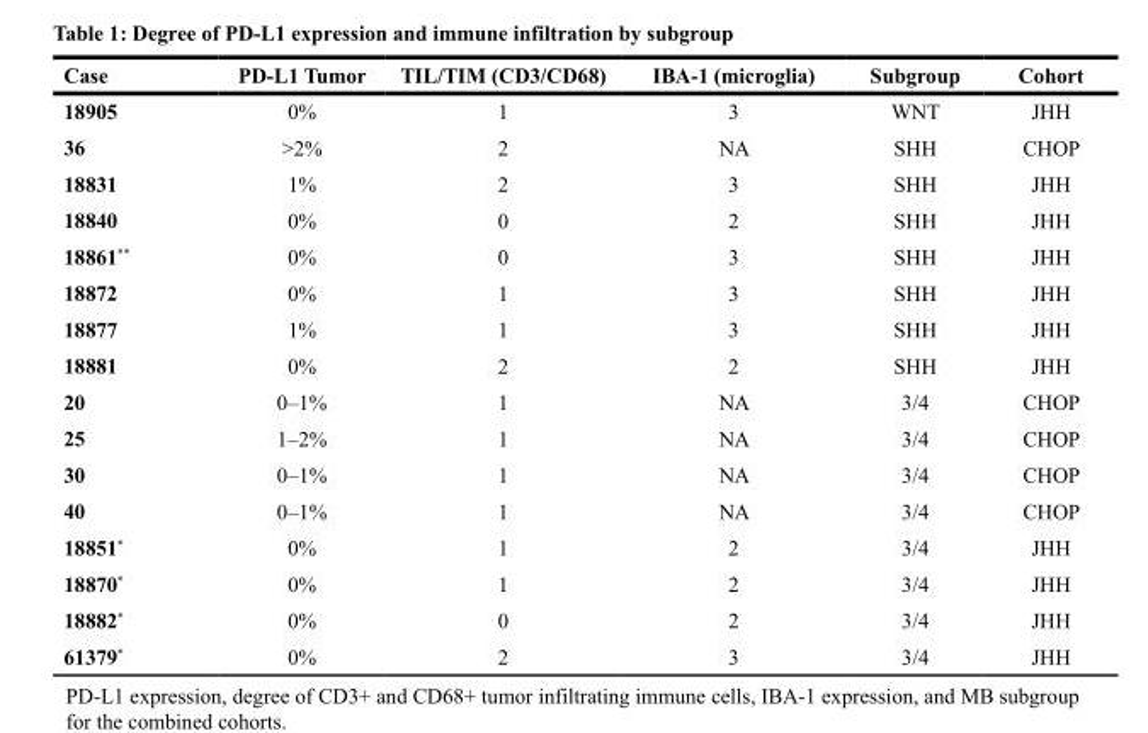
<table><thead><tr><td>Case</td><td>PD-L1 Tumor</td><td>TIL/TIM (CD3/CD68)</td><td>IBA-1 (microglia)</td><td>Subgroup</td><td>Cohort</td></tr></thead><tbody><tr><td>18905</td><td>0%</td><td>1</td><td>3</td><td>WNT</td><td>JHH</td></tr><tr><td>36</td><td>&gt;2%</td><td>2</td><td>NA</td><td>SHH</td><td>CHOP</td></tr><tr><td>18831</td><td>1%</td><td>2</td><td>3</td><td>SHH</td><td>JHH</td></tr><tr><td>18840</td><td>0%</td><td>0</td><td>2</td><td>SHH</td><td>JHH</td></tr><tr><td>18861**</td><td>0%</td><td>0</td><td>3</td><td>SHH</td><td>JHH</td></tr><tr><td>18872</td><td>0%</td><td>1</td><td>3</td><td>SHH</td><td>JHH</td></tr><tr><td>18877</td><td>1%</td><td>1</td><td>3</td><td>SHH</td><td>JHH</td></tr><tr><td>18881</td><td>0%</td><td>2</td><td>2</td><td>SHH</td><td>JHH</td></tr><tr><td>20</td><td>0–1%</td><td>1</td><td>NA</td><td>3/4</td><td>CHOP</td></tr><tr><td>25</td><td>1–2%</td><td>1</td><td>NA</td><td>3/4</td><td>CHOP</td></tr><tr><td>30</td><td>0–1%</td><td>1</td><td>NA</td><td>3/4</td><td>CHOP</td></tr><tr><td>40</td><td>0–1%</td><td>1</td><td>NA</td><td>3/4</td><td>CHOP</td></tr><tr><td>18851*</td><td>0%</td><td>1</td><td>2</td><td>3/4</td><td>JHH</td></tr><tr><td>18870*</td><td>0%</td><td>1</td><td>2</td><td>3/4</td><td>JHH</td></tr><tr><td>18882*</td><td>0%</td><td>0</td><td>2</td><td>3/4</td><td>JHH</td></tr><tr><td>61379*</td><td>0%</td><td>2</td><td>3</td><td>3/4</td><td>JHH</td></tr></tbody></table>